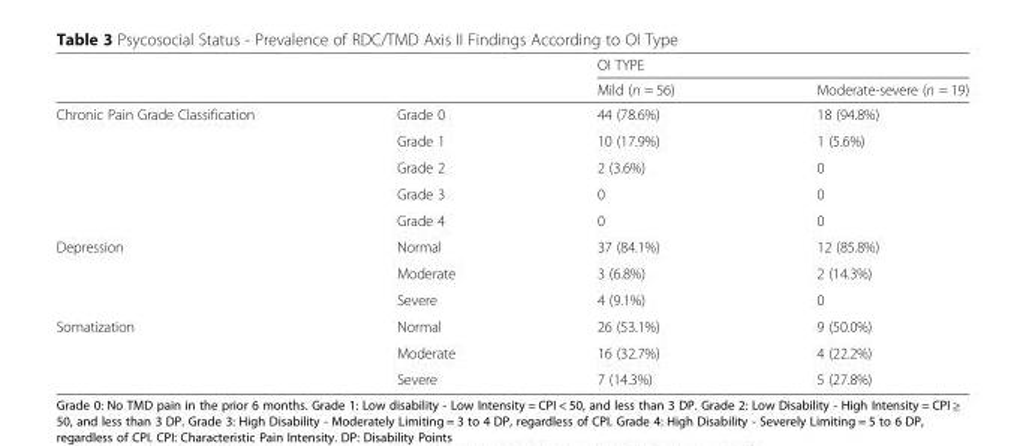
<table><thead><tr><td rowspan="2"></td><td rowspan="2"></td><td colspan="2">OI TYPE</td></tr><tr><td>Mild (n = 56)</td><td>Moderate-severe (n = 19)</td></tr></thead><tbody><tr><td rowspan="5">Chronic Pain Grade Classification</td><td>Grade 0</td><td>44 (78.6%)</td><td>18 (94.8%)</td></tr><tr><td>Grade 1</td><td>10 (17.9%)</td><td>1 (5.6%)</td></tr><tr><td>Grade 2</td><td>2 (3.6%)</td><td>0</td></tr><tr><td>Grade 3</td><td>0</td><td>0</td></tr><tr><td>Grade 4</td><td>0</td><td>0</td></tr><tr><td rowspan="3">Depression</td><td>Normal</td><td>37 (84.1%)</td><td>12 (85.8%)</td></tr><tr><td>Moderate</td><td>3 (6.8%)</td><td>2 (14.3%)</td></tr><tr><td>Severe</td><td>4 (9.1%)</td><td>0</td></tr><tr><td rowspan="3">Somatization</td><td>Normal</td><td>26 (53.1%)</td><td>9 (50.0%)</td></tr><tr><td>Moderate</td><td>16 (32.7%)</td><td>4 (22.2%)</td></tr><tr><td>Severe</td><td>7 (14.3%)</td><td>5 (27.8%)</td></tr></tbody></table>